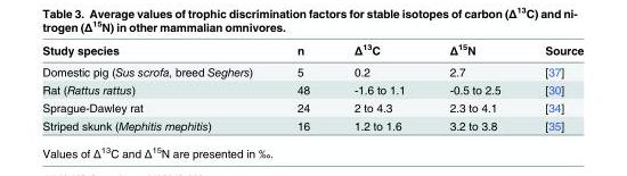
<table><thead><tr><td>Study species</td><td>n</td><td>Δ<sup>13</sup>C</td><td>Δ<sup>15</sup>N</td><td>Source</td></tr></thead><tbody><tr><td>Domestic pig (Sus scrofa, breed Seghers)</td><td>5</td><td>0.2</td><td>2.7</td><td>[37]</td></tr><tr><td>Rat (Rattus rattus)</td><td>48</td><td>-1.6 to 1.1</td><td>-0.5 to 2.5</td><td>[30]</td></tr><tr><td>Sprague-Dawley rat</td><td>24</td><td>2 to 4.3</td><td>2.3 to 4.1</td><td>[34]</td></tr><tr><td>Striped skunk (Mephitis mephitis)</td><td>16</td><td>1.2 to 1.6</td><td>3.2 to 3.8</td><td>[35]</td></tr></tbody></table>